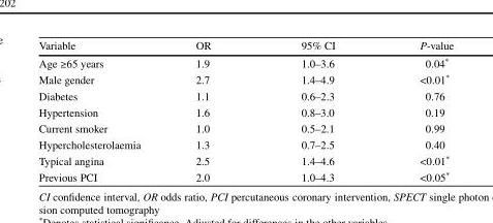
<table><thead><tr><td>Variable</td><td>OR</td><td>95% CI</td><td>P-value</td></tr></thead><tbody><tr><td>Age ≥65 years</td><td>1.9</td><td>1.0–3.6</td><td>0.04*</td></tr><tr><td>Male gender</td><td>2.7</td><td>1.4–4.9</td><td>&lt;0.01*</td></tr><tr><td>Diabetes</td><td>1.1</td><td>0.6–2.3</td><td>0.76</td></tr><tr><td>Hypertension</td><td>1.6</td><td>0.8–3.0</td><td>0.19</td></tr><tr><td>Current smoker</td><td>1.0</td><td>0.5–2.1</td><td>0.99</td></tr><tr><td>Hypercholesterolaemia</td><td>1.3</td><td>0.7–2.5</td><td>0.40</td></tr><tr><td>Typical angina</td><td>2.5</td><td>1.4–4.6</td><td>&lt;0.01*</td></tr><tr><td>Previous PCI</td><td>2.0</td><td>1.0–4.3</td><td>&lt;0.05*</td></tr></tbody></table>